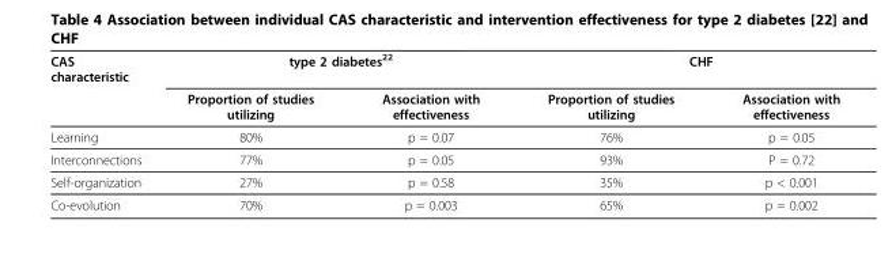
<table><thead><tr><td rowspan="2">CAS characteristic</td><td colspan="2">type 2 diabetes<sup>22</sup></td><td colspan="2">CHF</td></tr><tr><td>Proportion of studies utilizing</td><td>Association with effectiveness</td><td>Proportion of studies utilizing</td><td>Association with effectiveness</td></tr></thead><tbody><tr><td>Learning</td><td>80%</td><td>p = 0.07</td><td>76%</td><td>p = 0.05</td></tr><tr><td>Interconnections</td><td>77%</td><td>p = 0.05</td><td>93%</td><td>P = 0.72</td></tr><tr><td>Self-organization</td><td>27%</td><td>p = 0.58</td><td>35%</td><td>p &lt; 0.001</td></tr><tr><td>Co-evolution</td><td>70%</td><td>p = 0.003</td><td>65%</td><td>p = 0.002</td></tr></tbody></table>